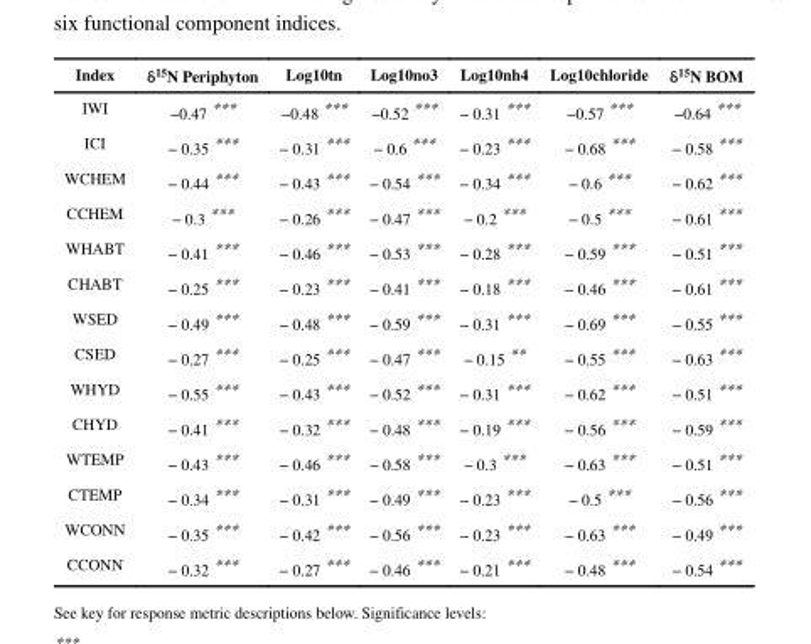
<table><thead><tr><td>Index</td><td>δ<sup>15</sup>N Periphyton</td><td>Log10tn</td><td>Log10no3</td><td>Log10nh4</td><td>Log10chloride</td><td>δ<sup>15</sup>N BOM</td></tr></thead><tbody><tr><td>IWI</td><td>−0.47 ***</td><td>−0.48 ***</td><td>−0.52 ***</td><td>− 0.31 ***</td><td>−0.57 ***</td><td>−0.64 ***</td></tr><tr><td>ICI</td><td>− 0.35 ***</td><td>− 0.31 ***</td><td>− 0.6 ***</td><td>− 0.23 ***</td><td>− 0.68 ***</td><td>− 0.58 ***</td></tr><tr><td>WCHEM</td><td>− 0.44 ***</td><td>− 0.43 ***</td><td>− 0.54 ***</td><td>− 0.34 ***</td><td>− 0.6 ***</td><td>− 0.62 ***</td></tr><tr><td>CCHEM</td><td>− 0.3 ***</td><td>− 0.26 ***</td><td>− 0.47 ***</td><td>− 0.2 ***</td><td>− 0.5 ***</td><td>− 0.61 ***</td></tr><tr><td>WHABT</td><td>− 0.41 ***</td><td>− 0.46 ***</td><td>− 0.53 ***</td><td>− 0.28 ***</td><td>− 0.59 ***</td><td>− 0.51 ***</td></tr><tr><td>CHABT</td><td>− 0.25 ***</td><td>− 0.23 ***</td><td>− 0.41 ***</td><td>− 0.18 ***</td><td>− 0.46 ***</td><td>− 0.61 ***</td></tr><tr><td>WSED</td><td>− 0.49 ***</td><td>− 0.48 ***</td><td>− 0.59 ***</td><td>− 0.31 ***</td><td>− 0.69 ***</td><td>− 0.55 ***</td></tr><tr><td>CSED</td><td>− 0.27 ***</td><td>− 0.25 ***</td><td>− 0.47 ***</td><td>− 0.15 **</td><td>− 0.55 ***</td><td>− 0.63 ***</td></tr><tr><td>WHYD</td><td>− 0.55 ***</td><td>− 0.43 ***</td><td>− 0.52 ***</td><td>− 0.31 ***</td><td>− 0.62 ***</td><td>− 0.51 ***</td></tr><tr><td>CHYD</td><td>− 0.41 ***</td><td>− 0.32 ***</td><td>− 0.48 ***</td><td>− 0.19 ***</td><td>− 0.56 ***</td><td>− 0.59 ***</td></tr><tr><td>WTEMP</td><td>− 0.43 ***</td><td>− 0.46 ***</td><td>− 0.58 ***</td><td>− 0.3 ***</td><td>− 0.63 ***</td><td>− 0.51 ***</td></tr><tr><td>CTEMP</td><td>− 0.34 ***</td><td>− 0.31 ***</td><td>− 0.49 ***</td><td>− 0.23 ***</td><td>− 0.5 ***</td><td>− 0.56 ***</td></tr><tr><td>WCONN</td><td>− 0.35 ***</td><td>− 0.42 ***</td><td>− 0.56 ***</td><td>− 0.23 ***</td><td>− 0.63 ***</td><td>− 0.49 ***</td></tr><tr><td>CCONN</td><td>− 0.32 ***</td><td>− 0.27 ***</td><td>− 0.46 ***</td><td>− 0.21 ***</td><td>− 0.48 ***</td><td>− 0.54 ***</td></tr></tbody></table>